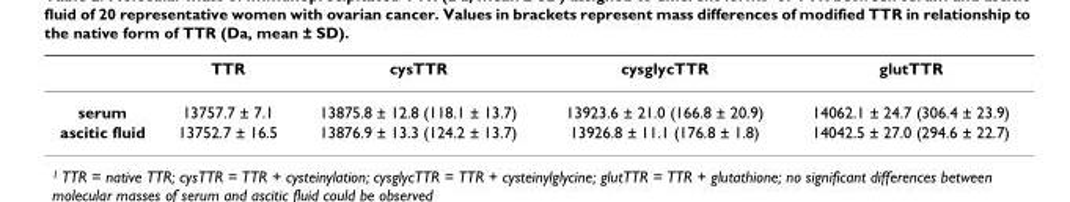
<table><thead><tr><td></td><td>TTR</td><td>cysTTR</td><td>cysglycTTR</td><td>glutTTR</td></tr></thead><tbody><tr><td>serum</td><td>13757.7 ± 7.1</td><td>13875.8 ± 12.8 (118.1 ± 13.7)</td><td>13923.6 ± 21.0 (166.8 ± 20.9)</td><td>14062.1 ± 24.7 (306.4 ± 23.9)</td></tr><tr><td>ascitic fluid</td><td>13752.7 ± 16.5</td><td>13876.9 ± 13.3 (124.2 ± 13.7)</td><td>13926.8 ± 11.1 (176.8 ± 1.8)</td><td>14042.5 ± 27.0 (294.6 ± 22.7)</td></tr></tbody></table>